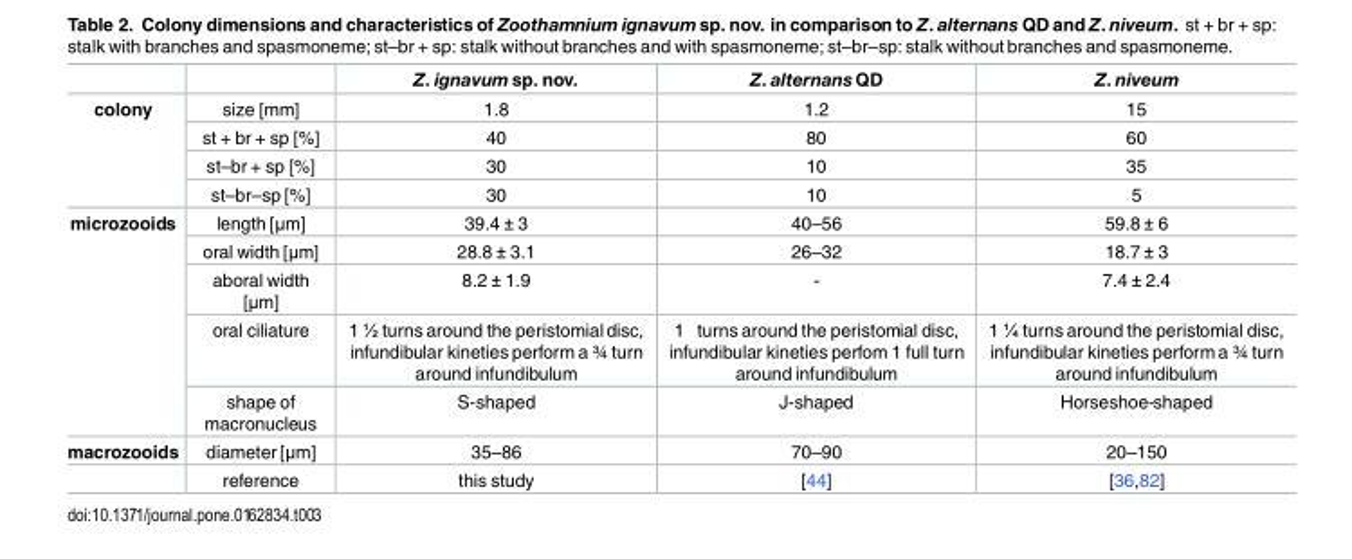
<table><thead><tr><td></td><td></td><td>Z. ignavum sp. nov.</td><td>Z. alternans QD</td><td>Z. niveum</td></tr></thead><tbody><tr><td rowspan="4">colony</td><td>size [mm]</td><td>1.8</td><td>1.2</td><td>15</td></tr><tr><td>st + br + sp [%]</td><td>40</td><td>80</td><td>60</td></tr><tr><td>st–br + sp [%]</td><td>30</td><td>10</td><td>35</td></tr><tr><td>st–br–sp [%]</td><td>30</td><td>10</td><td>5</td></tr><tr><td rowspan="5">microzooids</td><td>length [μm]</td><td>39.4 ± 3</td><td>40–56</td><td>59.8 ± 6</td></tr><tr><td>oral width [μm]</td><td>28.8 ± 3.1</td><td>26–32</td><td>18.7 ± 3</td></tr><tr><td>aboral width [μm]</td><td>8.2 ± 1.9</td><td>-</td><td>7.4 ± 2.4</td></tr><tr><td>oral ciliature</td><td>1 ½ turns around the peristomialdisc, infundibular kineties perform a ¾ turn around infundibulum</td><td>1 ⅓ turns around the peristomial disc, infundibular kineties perfom 1 full turn around infundibulum</td><td>1 ¼ turns around the peristomial disc, infundibular kineties perform a ¾ turn around infundibulum</td></tr><tr><td>shape of macronucleus</td><td>S-shaped</td><td>J-shaped</td><td>Horseshoe-shaped</td></tr><tr><td rowspan="2">macrozooids</td><td>diameter [μm]</td><td>35–86</td><td>70–90</td><td>20–150</td></tr><tr><td>reference</td><td>this study</td><td>[44]</td><td>[36,82]</td></tr></tbody></table>